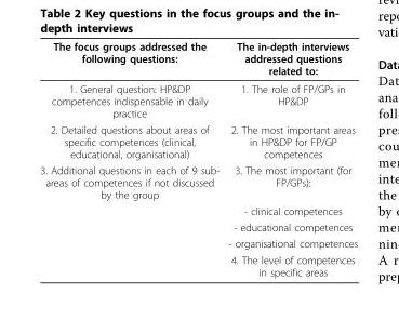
<table><thead><tr><td>The focus groups addressed the following questions:</td><td>The in-depth interviews addressed questions related to:</td></tr></thead><tbody><tr><td>1. General question: HP&amp;DP competences indispensable in daily practice</td><td>1. The role of FP/GPs in HP&amp;DP</td></tr><tr><td>2. Detailed questions about areas of specific competences (clinical, educational, organisational)</td><td>2. The most important areas in HP&amp;DP for FP/GP competences</td></tr><tr><td rowspan="5">3. Additional questions in each of 9 sub- areas of competences if not discussed by the group</td><td>3. The most important (for FP/GPs):</td></tr><tr><td>- clinical competences</td></tr><tr><td>- educational competences</td></tr><tr><td>- organisational competences</td></tr><tr><td>4. The level of competences in specific areas</td></tr></tbody></table>